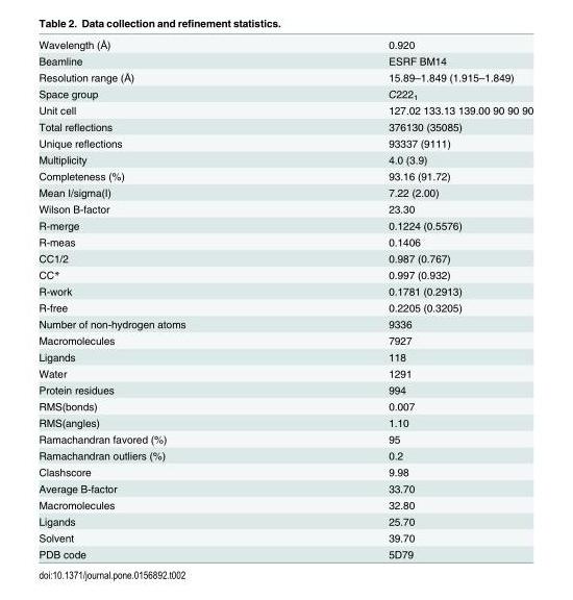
<table><tbody><tr><td>Wavelength (Å)</td><td>0.920</td></tr><tr><td>Beamline</td><td>ESRF BM14</td></tr><tr><td>Resolution range (Å)</td><td>15.89–1.849 (1.915–1.849)</td></tr><tr><td>Space group</td><td>C222<sub>1</sub></td></tr><tr><td>Unit cell</td><td>127.02 133.13 139.00 90 90 90</td></tr><tr><td>Total reflections</td><td>376130 (35085)</td></tr><tr><td>Unique reflections</td><td>93337 (9111)</td></tr><tr><td>Multiplicity</td><td>4.0 (3.9)</td></tr><tr><td>Completeness (%)</td><td>93.16 (91.72)</td></tr><tr><td>Mean I/sigma(I)</td><td>7.22 (2.00)</td></tr><tr><td>Wilson B-factor</td><td>23.30</td></tr><tr><td>R-merge</td><td>0.1224 (0.5576)</td></tr><tr><td>R-meas</td><td>0.1406</td></tr><tr><td>CC1/2</td><td>0.987 (0.767)</td></tr><tr><td>CC*</td><td>0.997 (0.932)</td></tr><tr><td>R-work</td><td>0.1781 (0.2913)</td></tr><tr><td>R-free</td><td>0.2205 (0.3205)</td></tr><tr><td>Number of non-hydrogen atoms</td><td>9336</td></tr><tr><td>Macromolecules</td><td>7927</td></tr><tr><td>Ligands</td><td>118</td></tr><tr><td>Water</td><td>1291</td></tr><tr><td>Protein residues</td><td>994</td></tr><tr><td>RMS(bonds)</td><td>0.007</td></tr><tr><td>RMS(angles)</td><td>1.10</td></tr><tr><td>Ramachandran favored (%)</td><td>95</td></tr><tr><td>Ramachandran outliers (%)</td><td>0.2</td></tr><tr><td>Clashscore</td><td>9.98</td></tr><tr><td>Average B-factor</td><td>33.70</td></tr><tr><td>Macromolecules</td><td>32.80</td></tr><tr><td>Ligands</td><td>25.70</td></tr><tr><td>Solvent</td><td>39.70</td></tr><tr><td>PDB code</td><td>5D79</td></tr></tbody></table>